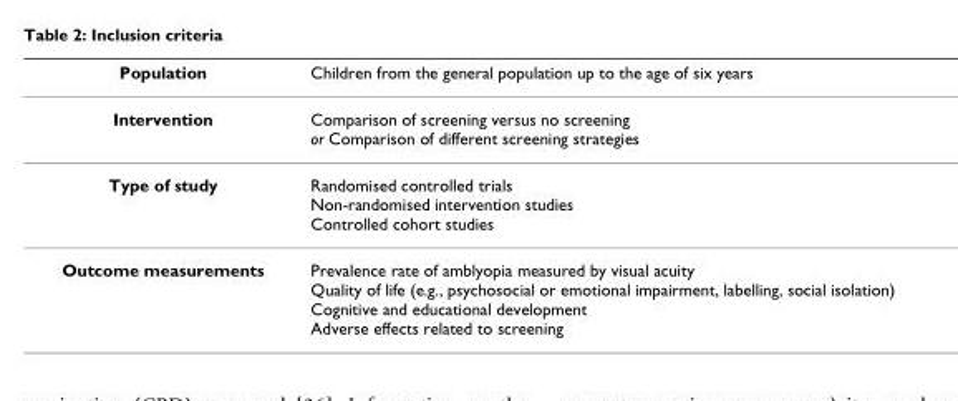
<table><thead><tr><td>Population</td><td>Children from the general population up to the age of six years</td></tr></thead><tbody><tr><td>Intervention</td><td>Comparison of screening versus no screening or Comparison of different screening strategies</td></tr><tr><td>Type of study</td><td>Randomised controlled trials Non-randomised intervention studies Controlled cohort studies</td></tr><tr><td>Outcome measurements</td><td>Prevalence rate of amblyopia measured by visual acuity Quality of life (e.g., psychosocial or emotional impairment, labelling, social isolation) Cognitive and educational development Adverse effects related to screening</td></tr></tbody></table>